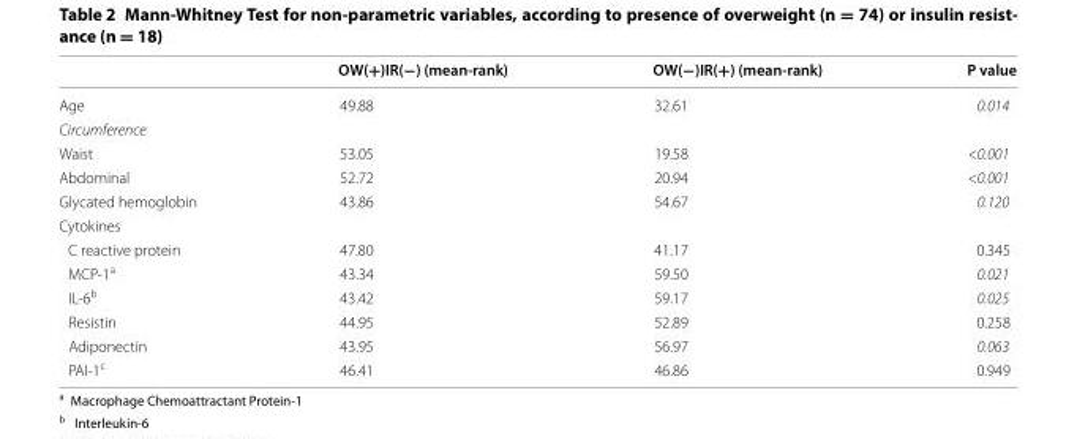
<table><thead><tr><td></td><td>OW(+)IR(−) (mean-rank)</td><td>OW(−)IR(+) (mean-rank)</td><td>P value</td></tr></thead><tbody><tr><td>Age</td><td>49.88</td><td>32.61</td><td>0.014</td></tr><tr><td colspan="4">Circumference</td></tr><tr><td>Waist</td><td>53.05</td><td>19.58</td><td>&lt;0.001</td></tr><tr><td>Abdominal</td><td>52.72</td><td>20.94</td><td>&lt;0.001</td></tr><tr><td>Glycated hemoglobin</td><td>43.86</td><td>54.67</td><td>0.120</td></tr><tr><td colspan="4">Cytokines</td></tr><tr><td>C reactive protein</td><td>47.80</td><td>41.17</td><td>0.345</td></tr><tr><td>MCP-1<sup>a</sup></td><td>43.34</td><td>59.50</td><td>0.021</td></tr><tr><td>IL-6<sup>b</sup></td><td>43.42</td><td>59.17</td><td>0.025</td></tr><tr><td>Resistin</td><td>44.95</td><td>52.89</td><td>0.258</td></tr><tr><td>Adiponectin</td><td>43.95</td><td>56.97</td><td>0.063</td></tr><tr><td>PAI-1<sup>c</sup></td><td>46.41</td><td>46.86</td><td>0.949</td></tr></tbody></table>